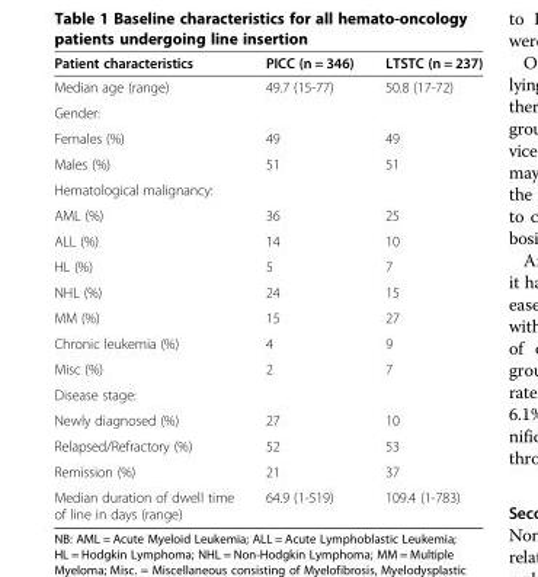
<table><thead><tr><td>Patient characteristics</td><td>PICC (n = 346)</td><td>LTSTC (n = 237)</td></tr></thead><tbody><tr><td>Median age (range)</td><td>49.7 (15-77)</td><td>50.8 (17-72)</td></tr><tr><td colspan="3">Gender:</td></tr><tr><td>Females (%)</td><td>49</td><td>49</td></tr><tr><td>Males (%)</td><td>51</td><td>51</td></tr><tr><td colspan="3">Hematological malignancy:</td></tr><tr><td>AML (%)</td><td>36</td><td>25</td></tr><tr><td>ALL (%)</td><td>14</td><td>10</td></tr><tr><td>HL (%)</td><td>5</td><td>7</td></tr><tr><td>NHL (%)</td><td>24</td><td>15</td></tr><tr><td>MM (%)</td><td>15</td><td>27</td></tr><tr><td>Chronic leukemia (%)</td><td>4</td><td>9</td></tr><tr><td>Misc (%)</td><td>2</td><td>7</td></tr><tr><td colspan="3">Disease stage:</td></tr><tr><td>Newly diagnosed (%)</td><td>27</td><td>10</td></tr><tr><td>Relapsed/Refractory (%)</td><td>52</td><td>53</td></tr><tr><td>Remission (%)</td><td>21</td><td>37</td></tr><tr><td>Median duration of dwell time of line in days (range)</td><td>64.9 (1-519)</td><td>109.4 (1-783)</td></tr></tbody></table>